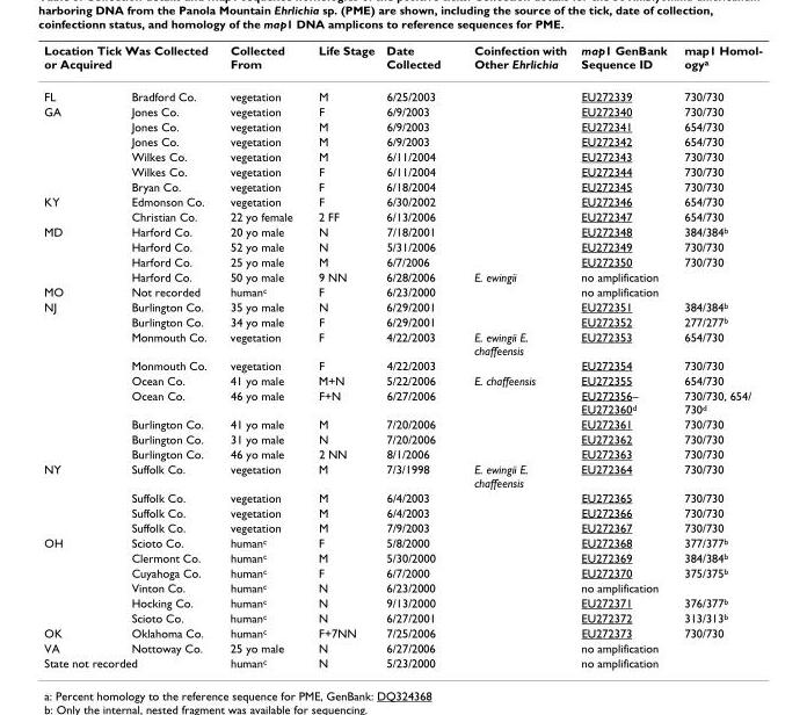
<table><thead><tr><td colspan="2">Location Tick Was Collected or Acquired</td><td rowspan="2">Collected From vegetation</td><td rowspan="2">Life Stage M</td><td rowspan="2">Date Collected 6/25/2003</td><td rowspan="2">Coinfection with Other Ehrlichia</td><td rowspan="2">map1 GenBank Sequence ID EU272339</td><td rowspan="2">map1 Homol- ogya 730/730</td></tr><tr><td>FL</td><td>Bradford Co.</td></tr></thead><tbody><tr><td rowspan="6">GA</td><td>Jones Co.</td><td>vegetation</td><td>F</td><td>6/9/2003</td><td></td><td>EU272340</td><td>730/730</td></tr><tr><td>Jones Co.</td><td>vegetation</td><td>M</td><td>6/9/2003</td><td></td><td>EU272341</td><td>654/730</td></tr><tr><td>Jones Co.</td><td>vegetation</td><td>M</td><td>6/9/2003</td><td></td><td>EU272342</td><td>654/730</td></tr><tr><td>Wilkes Co.</td><td>vegetation</td><td>M</td><td>6/11/2004</td><td></td><td>EU272343</td><td>730/730</td></tr><tr><td>Wilkes Co.</td><td>vegetation</td><td>F</td><td>6/11/2004</td><td></td><td>EU272344</td><td>730/730</td></tr><tr><td>Bryan Co.</td><td>vegetation</td><td>F</td><td>6/18/2004</td><td></td><td>EU272345</td><td>730/730</td></tr><tr><td rowspan="2">KY</td><td>Edmonson Co.</td><td>vegetation</td><td>F</td><td>6/30/2002</td><td></td><td>EU272346</td><td>654/730</td></tr><tr><td>Christian Co.</td><td>22 yo female</td><td>2 FF</td><td>6/13/2006</td><td></td><td>EU272347</td><td>654/730</td></tr><tr><td rowspan="4">MD</td><td>Harford Co.</td><td>20 yo male</td><td>N</td><td>7/18/2001</td><td></td><td>EU272348</td><td>384/384<sup>b</sup></td></tr><tr><td>Harford Co.</td><td>52 yo male</td><td>N</td><td>5/31/2006</td><td></td><td>EU272349</td><td>730/730</td></tr><tr><td>Harford Co.</td><td>25 yo male</td><td>M</td><td>6/7/2006</td><td></td><td>EU272350</td><td>730/730</td></tr><tr><td>Harford Co.</td><td>50 yo male</td><td>9 NN</td><td>6/28/2006</td><td>E. ewingii</td><td>no amplification</td><td></td></tr><tr><td>MO</td><td>Not recorded</td><td>human<sup>c</sup></td><td>F</td><td>6/23/2000</td><td></td><td>no amplification</td><td></td></tr><tr><td rowspan="9">NJ</td><td>Burlington Co.</td><td>35 yo male</td><td>N</td><td>6/29/2001</td><td></td><td>EU272351</td><td>384/384<sup>b</sup></td></tr><tr><td>Burlington Co.</td><td>34 yo male</td><td>F</td><td>6/29/2001</td><td></td><td>EU272352</td><td>277/277<sup>b</sup></td></tr><tr><td>Monmouth Co.</td><td>vegetation</td><td>F</td><td>4/22/2003</td><td>E. ewingii E. chaffeensis</td><td>EU272353</td><td>654/730</td></tr><tr><td>Monmouth Co.</td><td>vegetation</td><td>F</td><td>4/22/2003</td><td></td><td>EU272354</td><td>730/730</td></tr><tr><td>Ocean Co.</td><td>41 yo male</td><td>M+N</td><td>5/22/2006</td><td>E. chaffeensis</td><td>EU272355</td><td>654/730</td></tr><tr><td>Ocean Co.</td><td>46 yo male</td><td>F+N</td><td>6/27/2006</td><td></td><td>EU272356– EU272360<sup>d</sup></td><td>730/730, 654/ 730<sup>d</sup></td></tr><tr><td>Burlington Co.</td><td>41 yo male</td><td>M</td><td>7/20/2006</td><td></td><td>EU272361</td><td>730/730</td></tr><tr><td>Burlington Co.</td><td>31 yo male</td><td>N</td><td>7/20/2006</td><td></td><td>EU272362</td><td>730/730</td></tr><tr><td>Burlington Co.</td><td>46 yo male</td><td>2 NN</td><td>8/1/2006</td><td></td><td>EU272363</td><td>730/730</td></tr><tr><td rowspan="4">NY</td><td>Suffolk Co.</td><td>vegetation</td><td>M</td><td>7/3/1998</td><td>E. ewingii E. chaffeensis</td><td>EU272364</td><td>730/730</td></tr><tr><td>Suffolk Co.</td><td>vegetation</td><td>M</td><td>6/4/2003</td><td></td><td>EU272365</td><td>730/730</td></tr><tr><td>Suffolk Co.</td><td>vegetation</td><td>M</td><td>6/4/2003</td><td></td><td>EU272366</td><td>730/730</td></tr><tr><td>Suffolk Co.</td><td>vegetation</td><td>M</td><td>7/9/2003</td><td></td><td>EU272367</td><td>730/730</td></tr><tr><td rowspan="6">OH</td><td>Scioto Co.</td><td>human<sup>c</sup></td><td>F</td><td>5/8/2000</td><td></td><td>EU272368</td><td>377/377<sup>b</sup></td></tr><tr><td>Clermont Co.</td><td>human<sup>c</sup></td><td>M</td><td>5/30/2000</td><td></td><td>EU272369</td><td>384/384<sup>b</sup></td></tr><tr><td>Cuyahoga Co.</td><td>human<sup>c</sup></td><td>F</td><td>6/7/2000</td><td></td><td>EU272370</td><td>375/375<sup>b</sup></td></tr><tr><td>Vinton Co.</td><td>human<sup>c</sup></td><td>N</td><td>6/23/2000</td><td></td><td>no amplification</td><td></td></tr><tr><td>Hocking Co.</td><td>human<sup>c</sup></td><td>N</td><td>9/13/2000</td><td></td><td>EU272371</td><td>376/377<sup>b</sup></td></tr><tr><td>Scioto Co.</td><td>human<sup>c</sup></td><td>N</td><td>6/27/2001</td><td></td><td>EU272372</td><td>313/313<sup>b</sup></td></tr><tr><td>OK</td><td>Oklahoma Co.</td><td>human<sup>c</sup></td><td>F+7NN</td><td>7/25/2006</td><td></td><td>EU272373</td><td>730/730</td></tr><tr><td>VA</td><td>Nottoway Co.</td><td>25 yo male</td><td>N</td><td>6/27/2006</td><td></td><td>no amplification</td><td></td></tr><tr><td colspan="2">State not recorded</td><td>human<sup>c</sup></td><td>N</td><td>5/23/2000</td><td></td><td>no amplification</td><td></td></tr></tbody></table>